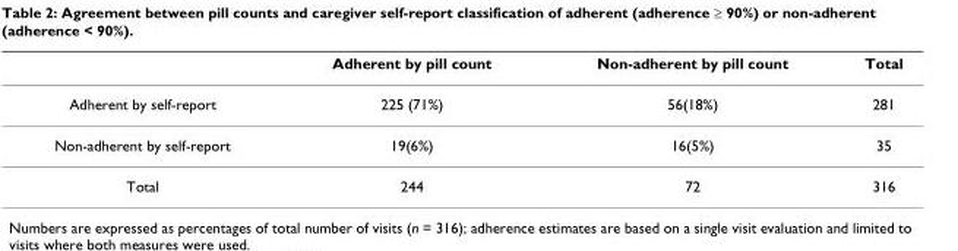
<table><thead><tr><td></td><td>Adherent by pill count</td><td>Non-adherent by pill count</td><td>Total</td></tr></thead><tbody><tr><td>Adherent by self-report</td><td>225 (71%)</td><td>56(18%)</td><td>281</td></tr><tr><td>Non-adherent by self-report</td><td>19(6%)</td><td>16(5%)</td><td>35</td></tr><tr><td>Total</td><td>244</td><td>72</td><td>316</td></tr></tbody></table>